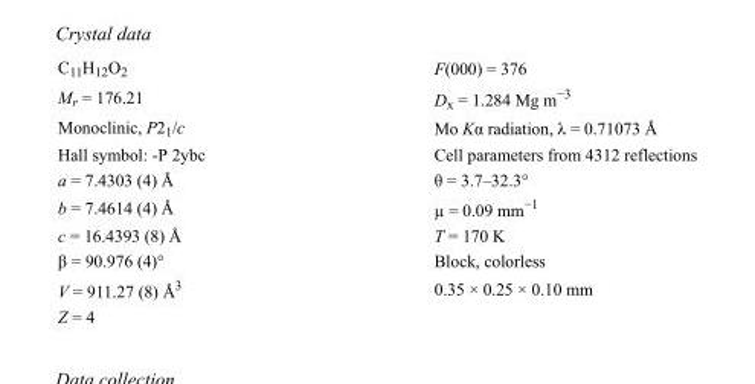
<table><tbody><tr><td>C<sub>11</sub>H<sub>12</sub>O<sub>2</sub></td><td>F(000) = 376</td></tr><tr><td>M<sub>r</sub> = 176.21</td><td>D<sub>x</sub> = 1.284 Mg m<sup>−3</sup></td></tr><tr><td>Monoclinic, P2<sub>1</sub>/c</td><td>Mo Kα radiation, λ = 0.71073 Å</td></tr><tr><td>Hall symbol: -P 2ybc</td><td>Cell parameters from 4312 reflections</td></tr><tr><td>a = 7.4303 (4) Å</td><td>θ = 3.7–32.3°</td></tr><tr><td>b = 7.4614 (4) Å</td><td>µ = 0.09 mm<sup>−1</sup></td></tr><tr><td>c = 16.4393 (8) Å</td><td>T = 170 K</td></tr><tr><td>β = 90.976 (4)°</td><td>Block, colorless</td></tr><tr><td>V = 911.27 (8) Å<sup>3</sup></td><td>0.35 × 0.25 × 0.10 mm</td></tr><tr><td>Z = 4</td><td></td></tr></tbody></table>